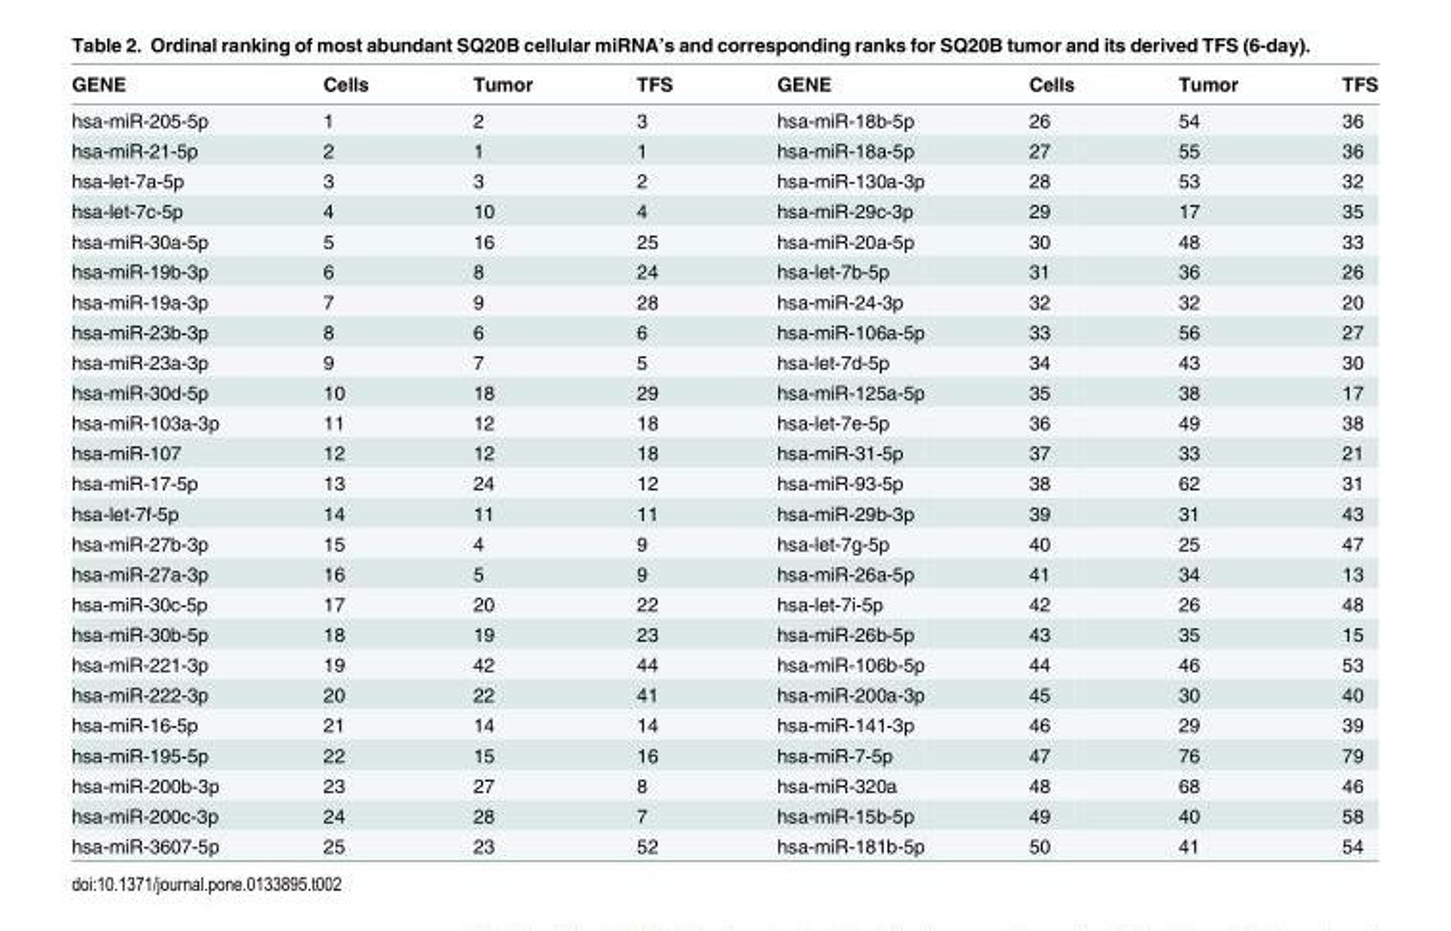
<table><thead><tr><td>GENE</td><td>Cells</td><td>Tumor</td><td>TFS</td><td>GENE</td><td>Cells</td><td>Tumor</td><td>TFS</td></tr></thead><tbody><tr><td>hsa-miR-205-5p</td><td>1</td><td>2</td><td>3</td><td>hsa-miR-18b-5p</td><td>26</td><td>54</td><td>36</td></tr><tr><td>hsa-miR-21-5p</td><td>2</td><td>1</td><td>1</td><td>hsa-miR-18a-5p</td><td>27</td><td>55</td><td>36</td></tr><tr><td>hsa-let-7a-5p</td><td>3</td><td>3</td><td>2</td><td>hsa-miR-130a-3p</td><td>28</td><td>53</td><td>32</td></tr><tr><td>hsa-let-7c-5p</td><td>4</td><td>10</td><td>4</td><td>hsa-miR-29c-3p</td><td>29</td><td>17</td><td>35</td></tr><tr><td>hsa-miR-30a-5p</td><td>5</td><td>16</td><td>25</td><td>hsa-miR-20a-5p</td><td>30</td><td>48</td><td>33</td></tr><tr><td>hsa-miR-19b-3p</td><td>6</td><td>8</td><td>24</td><td>hsa-let-7b-5p</td><td>31</td><td>36</td><td>26</td></tr><tr><td>hsa-miR-19a-3p</td><td>7</td><td>9</td><td>28</td><td>hsa-miR-24-3p</td><td>32</td><td>32</td><td>20</td></tr><tr><td>hsa-miR-23b-3p</td><td>8</td><td>6</td><td>6</td><td>hsa-miR-106a-5p</td><td>33</td><td>56</td><td>27</td></tr><tr><td>hsa-miR-23a-3p</td><td>9</td><td>7</td><td>5</td><td>hsa-let-7d-5p</td><td>34</td><td>43</td><td>30</td></tr><tr><td>hsa-miR-30d-5p</td><td>10</td><td>18</td><td>29</td><td>hsa-miR-125a-5p</td><td>35</td><td>38</td><td>17</td></tr><tr><td>hsa-miR-103a-3p</td><td>11</td><td>12</td><td>18</td><td>hsa-let-7e-5p</td><td>36</td><td>49</td><td>38</td></tr><tr><td>hsa-miR-107</td><td>12</td><td>12</td><td>18</td><td>hsa-miR-31-5p</td><td>37</td><td>33</td><td>21</td></tr><tr><td>hsa-miR-17-5p</td><td>13</td><td>24</td><td>12</td><td>hsa-miR-93-5p</td><td>38</td><td>62</td><td>31</td></tr><tr><td>hsa-let-7f-5p</td><td>14</td><td>11</td><td>11</td><td>hsa-miR-29b-3p</td><td>39</td><td>31</td><td>43</td></tr><tr><td>hsa-miR-27b-3p</td><td>15</td><td>4</td><td>9</td><td>hsa-let-7g-5p</td><td>40</td><td>25</td><td>47</td></tr><tr><td>hsa-miR-27a-3p</td><td>16</td><td>5</td><td>9</td><td>hsa-miR-26a-5p</td><td>41</td><td>34</td><td>13</td></tr><tr><td>hsa-miR-30c-5p</td><td>17</td><td>20</td><td>22</td><td>hsa-let-7i-5p</td><td>42</td><td>26</td><td>48</td></tr><tr><td>hsa-miR-30b-5p</td><td>18</td><td>19</td><td>23</td><td>hsa-miR-26b-5p</td><td>43</td><td>35</td><td>15</td></tr><tr><td>hsa-miR-221-3p</td><td>19</td><td>42</td><td>44</td><td>hsa-miR-106b-5p</td><td>44</td><td>46</td><td>53</td></tr><tr><td>hsa-miR-222-3p</td><td>20</td><td>22</td><td>41</td><td>hsa-miR-200a-3p</td><td>45</td><td>30</td><td>40</td></tr><tr><td>hsa-miR-16-5p</td><td>21</td><td>14</td><td>14</td><td>hsa-miR-141-3p</td><td>46</td><td>29</td><td>39</td></tr><tr><td>hsa-miR-195-5p</td><td>22</td><td>15</td><td>16</td><td>hsa-miR-7-5p</td><td>47</td><td>76</td><td>79</td></tr><tr><td>hsa-miR-200b-3p</td><td>23</td><td>27</td><td>8</td><td>hsa-miR-320a</td><td>48</td><td>68</td><td>46</td></tr><tr><td>hsa-miR-200c-3p</td><td>24</td><td>28</td><td>7</td><td>hsa-miR-15b-5p</td><td>49</td><td>40</td><td>58</td></tr><tr><td>hsa-miR-3607-5p</td><td>25</td><td>23</td><td>52</td><td>hsa-miR-181b-5p</td><td>50</td><td>41</td><td>54</td></tr></tbody></table>